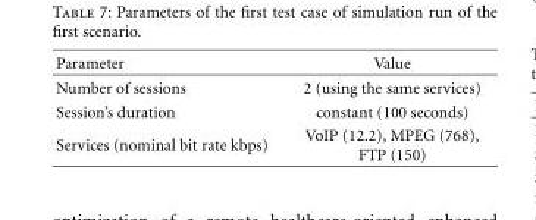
<table><thead><tr><td>Parameter</td><td>Value</td></tr></thead><tbody><tr><td>Number of sessions</td><td>2 (using the same services)</td></tr><tr><td>Session’s duration</td><td>constant (100 seconds)</td></tr><tr><td>Services (nominal bit rate kbps)</td><td>VoIP (12.2), MPEG (768), FTP (150)</td></tr></tbody></table>